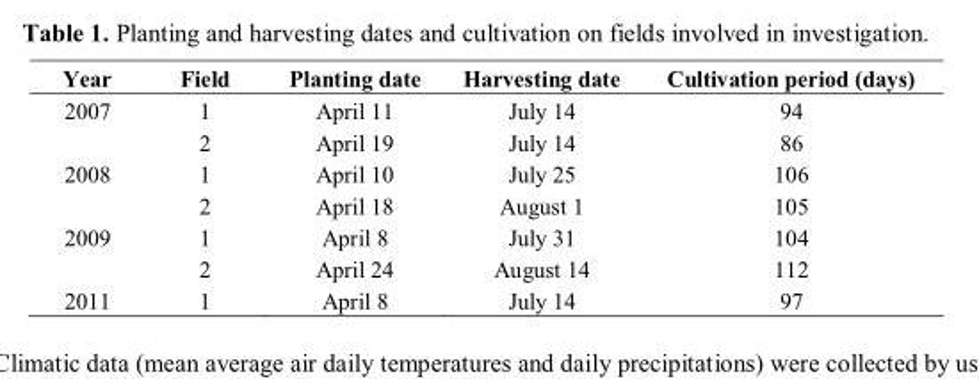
<table><thead><tr><td>Year</td><td>Field</td><td>Planting date</td><td>Harvesting date</td><td>Cultivation period (days)</td></tr></thead><tbody><tr><td rowspan="2">2007</td><td>1</td><td>April 11</td><td>July 14</td><td>94</td></tr><tr><td>2</td><td>April 19</td><td>July 14</td><td>86</td></tr><tr><td rowspan="2">2008</td><td>1</td><td>April 10</td><td>July 25</td><td>106</td></tr><tr><td>2</td><td>April 18</td><td>August 1</td><td>105</td></tr><tr><td rowspan="2">2009</td><td>1</td><td>April 8</td><td>July 31</td><td>104</td></tr><tr><td>2</td><td>April 24</td><td>August 14</td><td>112</td></tr><tr><td>2011</td><td>1</td><td>April 8</td><td>July 14</td><td>97</td></tr></tbody></table>